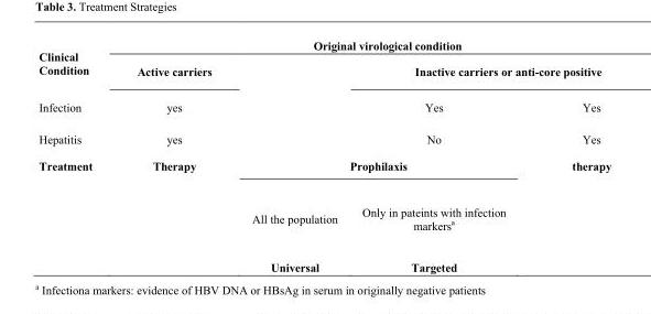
<table><tbody><tr><td rowspan="2">Clinical Condition</td><td colspan="4">Original virological condition</td></tr><tr><td>Active carriers</td><td></td><td colspan="2">Inactive carriers or anti-core positive</td></tr><tr><td>Infection</td><td>yes</td><td></td><td>Yes</td><td>Yes</td></tr><tr><td>Hepatitis</td><td>yes</td><td></td><td>No</td><td>Yes</td></tr><tr><td rowspan="3">Treatment</td><td>Therapy</td><td colspan="2">Prophilaxis</td><td>therapy</td></tr><tr><td></td><td>All the population</td><td>Only in pateints with infection markers<sup>a</sup></td><td></td></tr><tr><td></td><td>Universal</td><td>Targeted</td><td></td></tr></tbody></table>